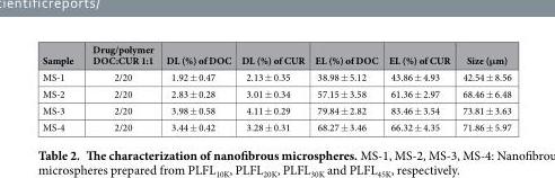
<table><thead><tr><td>Sample</td><td>Drug/polymer DOC:CUR 1:1</td><td>DL (%) of DOC</td><td>DL (%) of CUR</td><td>EL (%) of DOC</td><td>EL (%) of CUR</td><td>Size (μm)</td></tr></thead><tbody><tr><td>MS-1</td><td>2/20</td><td>1.92 ± 0.47</td><td>2.13 ± 0.35</td><td>38.98 ± 5.12</td><td>43.86 ± 4.93</td><td>42.54 ± 8.56</td></tr><tr><td>MS-2</td><td>2/20</td><td>2.83 ± 0.28</td><td>3.01 ± 0.34</td><td>57.15 ± 3.58</td><td>61.36 ± 2.97</td><td>68.46 ± 6.48</td></tr><tr><td>MS-3</td><td>2/20</td><td>3.98 ± 0.58</td><td>4.11 ± 0.29</td><td>79.84 ± 2.82</td><td>83.46 ± 3.54</td><td>73.81 ± 3.63</td></tr><tr><td>MS-4</td><td>2/20</td><td>3.44 ± 0.42</td><td>3.28 ± 0.31</td><td>68.27 ± 3.46</td><td>66.32 ± 4.35</td><td>71.86 ± 5.97</td></tr></tbody></table>